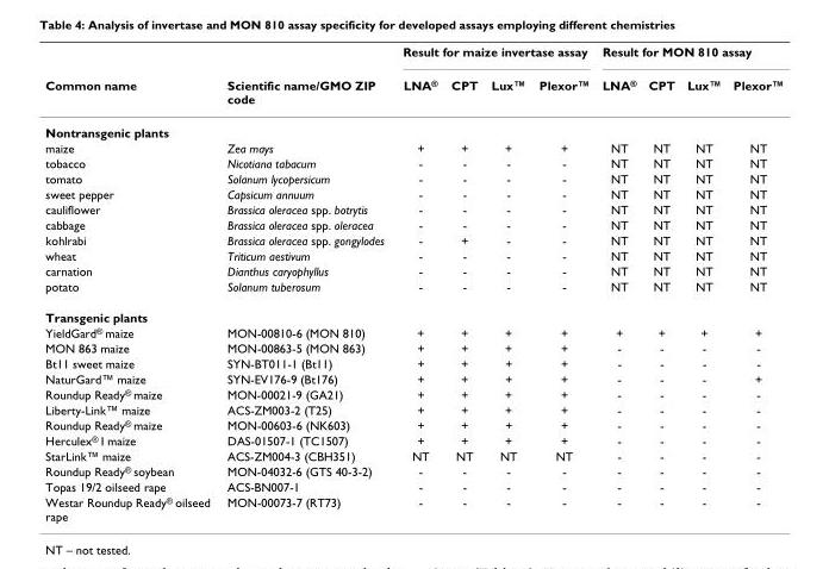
<table><thead><tr><td rowspan="2">Common name</td><td rowspan="2">Scientific name/GMO ZIP code</td><td colspan="4">Result for maize invertase assay</td><td colspan="4">Result for MON 810 assay</td></tr><tr><td>LNA<sup>®</sup></td><td>CPT</td><td>Lux™</td><td>Plexor™</td><td>LNA<sup>®</sup></td><td>CPT</td><td>Lux™</td><td>Plexor™</td></tr></thead><tbody><tr><td colspan="10">Nontransgenic plants</td></tr><tr><td>maize</td><td>Zea mays</td><td>+</td><td>+</td><td>+</td><td>+</td><td>NT</td><td>NT</td><td>NT</td><td>NT</td></tr><tr><td>tobacco</td><td>Nicotiana tabacum</td><td>-</td><td>-</td><td>-</td><td>-</td><td>NT</td><td>NT</td><td>NT</td><td>NT</td></tr><tr><td>tomato</td><td>Solanum lycopersicum</td><td>-</td><td>-</td><td>-</td><td>-</td><td>NT</td><td>NT</td><td>NT</td><td>NT</td></tr><tr><td>sweet pepper</td><td>Capsicum annuum</td><td>-</td><td>-</td><td>-</td><td>-</td><td>NT</td><td>NT</td><td>NT</td><td>NT</td></tr><tr><td>cauliflower</td><td>Brassica oleracea spp. botrytis</td><td>-</td><td>-</td><td>-</td><td>-</td><td>NT</td><td>NT</td><td>NT</td><td>NT</td></tr><tr><td>cabbage</td><td>Brassica oleracea spp. oleracea</td><td>-</td><td>-</td><td>-</td><td>-</td><td>NT</td><td>NT</td><td>NT</td><td>NT</td></tr><tr><td>kohlrabi</td><td>Brassica oleracea spp. gongylodes</td><td>-</td><td>+</td><td>-</td><td>-</td><td>NT</td><td>NT</td><td>NT</td><td>NT</td></tr><tr><td>wheat</td><td>Triticum aestivum</td><td>-</td><td>-</td><td>-</td><td>-</td><td>NT</td><td>NT</td><td>NT</td><td>NT</td></tr><tr><td>carnation</td><td>Dianthus caryophyllus</td><td>-</td><td>-</td><td>-</td><td>-</td><td>NT</td><td>NT</td><td>NT</td><td>NT</td></tr><tr><td>potato</td><td>Solanum tuberosum</td><td>-</td><td>-</td><td>-</td><td>-</td><td>NT</td><td>NT</td><td>NT</td><td>NT</td></tr><tr><td colspan="10">Transgenic plants</td></tr><tr><td>YieldGard<sup>®</sup> maize</td><td>MON-00810-6 (MON 810)</td><td>+</td><td>+</td><td>+</td><td>+</td><td>+</td><td>+</td><td>+</td><td>+</td></tr><tr><td>MON 863 maize</td><td>MON-00863-5 (MON 863)</td><td>+</td><td>+</td><td>+</td><td>+</td><td>-</td><td>-</td><td>-</td><td>-</td></tr><tr><td>Bt11 sweet maize</td><td>SYN-BT011-1 (Bt11)</td><td>+</td><td>+</td><td>+</td><td>+</td><td>-</td><td>-</td><td>-</td><td>-</td></tr><tr><td>NaturGard™ maize</td><td>SYN-EV176-9 (Bt176)</td><td>+</td><td>+</td><td>+</td><td>+</td><td>-</td><td>-</td><td>-</td><td>+</td></tr><tr><td>Roundup Ready<sup>®</sup> maize</td><td>MON-00021-9 (GA21)</td><td>+</td><td>+</td><td>+</td><td>+</td><td>-</td><td>-</td><td>-</td><td>-</td></tr><tr><td>Liberty-Link™ maize</td><td>ACS-ZM003-2 (T25)</td><td>+</td><td>+</td><td>+</td><td>+</td><td>-</td><td>-</td><td>-</td><td>-</td></tr><tr><td>Roundup Ready<sup>®</sup> maize</td><td>MON-00603-6 (NK603)</td><td>+</td><td>+</td><td>+</td><td>+</td><td>-</td><td>-</td><td>-</td><td>-</td></tr><tr><td>Herculex<sup>®</sup> I maize</td><td>DAS-01507-1 (TC1507)</td><td>+</td><td>+</td><td>+</td><td>+</td><td>-</td><td>-</td><td>-</td><td>-</td></tr><tr><td>StarLink™ maize</td><td>ACS-ZM004-3 (CBH351)</td><td>NT</td><td>NT</td><td>NT</td><td>NT</td><td>-</td><td>-</td><td>-</td><td>-</td></tr><tr><td>Roundup Ready<sup>®</sup> soybean</td><td>MON-04032-6 (GTS 40-3-2)</td><td>-</td><td>-</td><td>-</td><td>-</td><td>-</td><td>-</td><td>-</td><td>-</td></tr><tr><td>Topas 19/2 oilseed rape</td><td>ACS-BN007-1</td><td>-</td><td>-</td><td>-</td><td>-</td><td>-</td><td>-</td><td>-</td><td>-</td></tr><tr><td>Westar Roundup Ready<sup>®</sup> oilseed rape</td><td>MON-00073-7 (RT73)</td><td>-</td><td>-</td><td>-</td><td>-</td><td>-</td><td>-</td><td>-</td><td>-</td></tr></tbody></table>